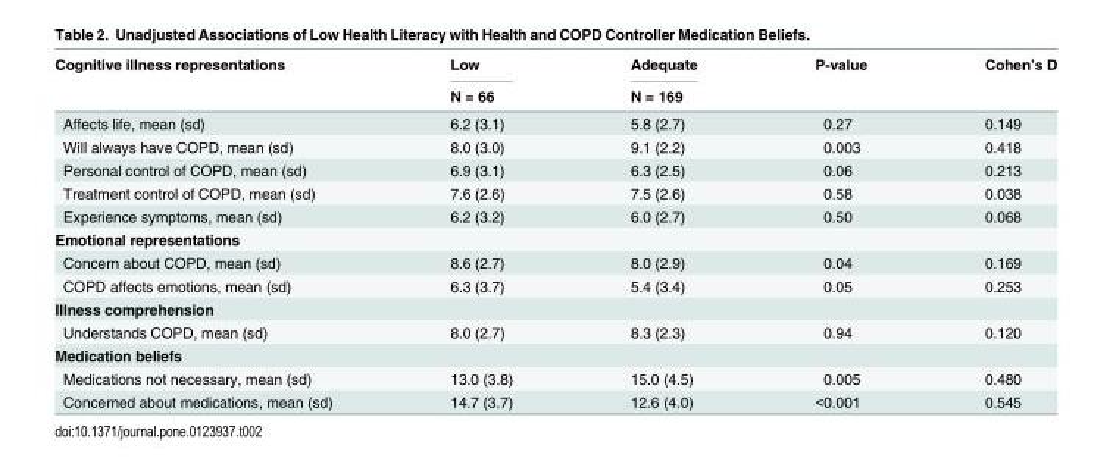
<table><thead><tr><td rowspan="2">Cognitive illness representations</td><td rowspan="2">Low N = 66</td><td rowspan="2">Adequate N = 169</td><td rowspan="2">P-value</td><td rowspan="2">Cohen’s D</td></tr><tr></tr></thead><tbody><tr><td>Affects life, mean (sd)</td><td>6.2 (3.1)</td><td>5.8 (2.7)</td><td>0.27</td><td>0.149</td></tr><tr><td>Will always have COPD, mean (sd)</td><td>8.0 (3.0)</td><td>9.1 (2.2)</td><td>0.003</td><td>0.418</td></tr><tr><td>Personal control of COPD, mean (sd)</td><td>6.9 (3.1)</td><td>6.3 (2.5)</td><td>0.06</td><td>0.213</td></tr><tr><td>Treatment control of COPD, mean (sd)</td><td>7.6 (2.6)</td><td>7.5 (2.6)</td><td>0.58</td><td>0.038</td></tr><tr><td>Experience symptoms, mean (sd)</td><td>6.2 (3.2)</td><td>6.0 (2.7)</td><td>0.50</td><td>0.068</td></tr><tr><td colspan="5">Emotional representations</td></tr><tr><td>Concern about COPD, mean (sd)</td><td>8.6 (2.7)</td><td>8.0 (2.9)</td><td>0.04</td><td>0.169</td></tr><tr><td>COPD affects emotions, mean (sd)</td><td>6.3 (3.7)</td><td>5.4 (3.4)</td><td>0.05</td><td>0.253</td></tr><tr><td colspan="5">Illness comprehension</td></tr><tr><td>Understands COPD, mean (sd)</td><td>8.0 (2.7)</td><td>8.3 (2.3)</td><td>0.94</td><td>0.120</td></tr><tr><td colspan="5">Medication beliefs</td></tr><tr><td>Medications not necessary, mean (sd)</td><td>13.0 (3.8)</td><td>15.0 (4.5)</td><td>0.005</td><td>0.480</td></tr><tr><td>Concerned about medications, mean (sd)</td><td>14.7 (3.7)</td><td>12.6 (4.0)</td><td>&lt;0.001</td><td>0.545</td></tr></tbody></table>